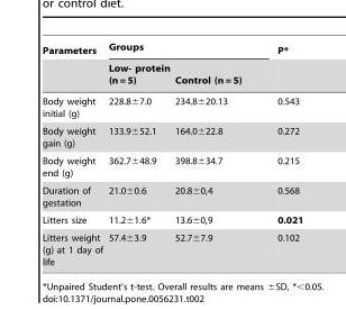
<table><thead><tr><td rowspan="2">Parameters</td><td colspan="2">Groups</td><td rowspan="2">P*</td></tr><tr><td>Low- protein (n = 5)</td><td>Control (n = 5)</td></tr></thead><tbody><tr><td>Body weight initial (g)</td><td>228.8±7.0</td><td>234.8±20.13</td><td>0.543</td></tr><tr><td>Body weight gain (g)</td><td>133.9±52.1</td><td>164.0±22.8</td><td>0.272</td></tr><tr><td>Body weight end (g)</td><td>362.7±48.9</td><td>398.8±34.7</td><td>0.215</td></tr><tr><td>Duration of gestation</td><td>21.0±0.6</td><td>20.8±0,4</td><td>0.568</td></tr><tr><td>Litters size</td><td>11.2±1.6*</td><td>13.6±0,9</td><td>0.021</td></tr><tr><td>Litters weight (g) at 1 day of life</td><td>57.4±3.9</td><td>52.7±7.9</td><td>0.102</td></tr></tbody></table>